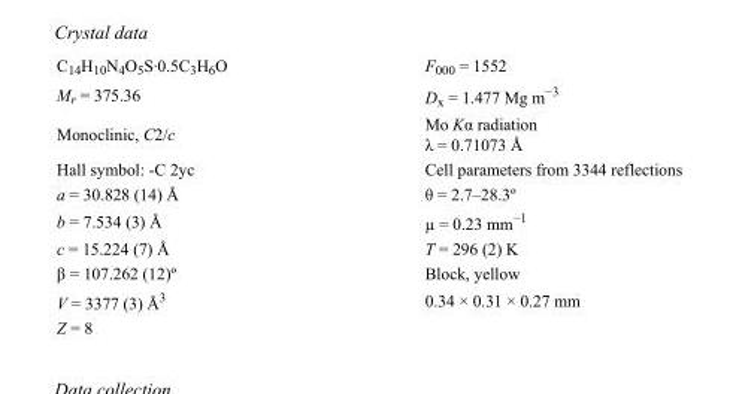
<table><tbody><tr><td>C<sub>14</sub>H<sub>10</sub>N<sub>4</sub>O<sub>5</sub>S·0.5C<sub>3</sub>H<sub>6</sub>O</td><td>F000 = 1552</td></tr><tr><td>M<sub>r</sub> = 375.36</td><td>D<sub>x</sub> = 1.477 Mg m<sup>−3</sup></td></tr><tr><td>Monoclinic, C2/c</td><td>Mo Kα radiation λ = 0.71073 Å</td></tr><tr><td>Hall symbol: -C 2yc</td><td>Cell parameters from 3344 reflections</td></tr><tr><td>a = 30.828 (14) Å</td><td>θ = 2.7–28.3º</td></tr><tr><td>b = 7.534 (3) Å</td><td>µ = 0.23 mm<sup>−1</sup></td></tr><tr><td>c = 15.224 (7) Å</td><td>T = 296 (2) K</td></tr><tr><td>β = 107.262 (12)º</td><td>Block, yellow</td></tr><tr><td>V = 3377 (3) Å<sup>3</sup></td><td>0.34 × 0.31 × 0.27 mm</td></tr><tr><td>Z = 8</td><td></td></tr></tbody></table>